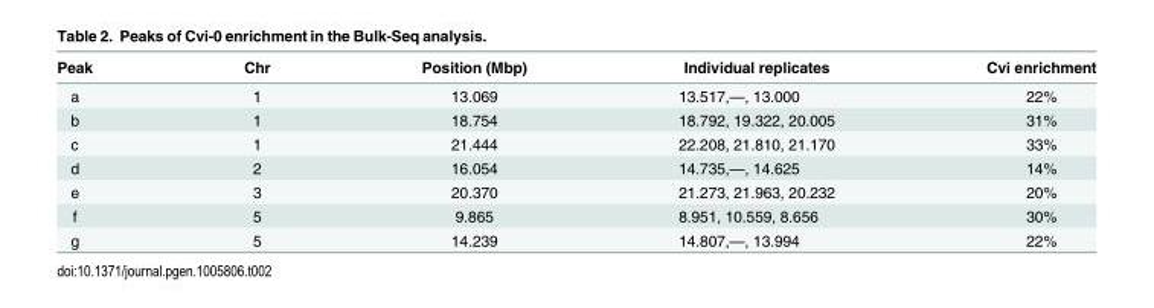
<table><thead><tr><td>Peak</td><td>Chr</td><td>Position (Mbp)</td><td>Individual replicates</td><td>Cvi enrichment</td></tr></thead><tbody><tr><td>a</td><td>1</td><td>13.069</td><td>13.517,—, 13.000</td><td>22%</td></tr><tr><td>b</td><td>1</td><td>18.754</td><td>18.792, 19.322, 20.005</td><td>31%</td></tr><tr><td>c</td><td>1</td><td>21.444</td><td>22.208, 21.810, 21.170</td><td>33%</td></tr><tr><td>d</td><td>2</td><td>16.054</td><td>14.735,—, 14.625</td><td>14%</td></tr><tr><td>e</td><td>3</td><td>20.370</td><td>21.273, 21.963, 20.232</td><td>20%</td></tr><tr><td>f</td><td>5</td><td>9.865</td><td>8.951, 10.559, 8.656</td><td>30%</td></tr><tr><td>g</td><td>5</td><td>14.239</td><td>14.807,—, 13.994</td><td>22%</td></tr></tbody></table>